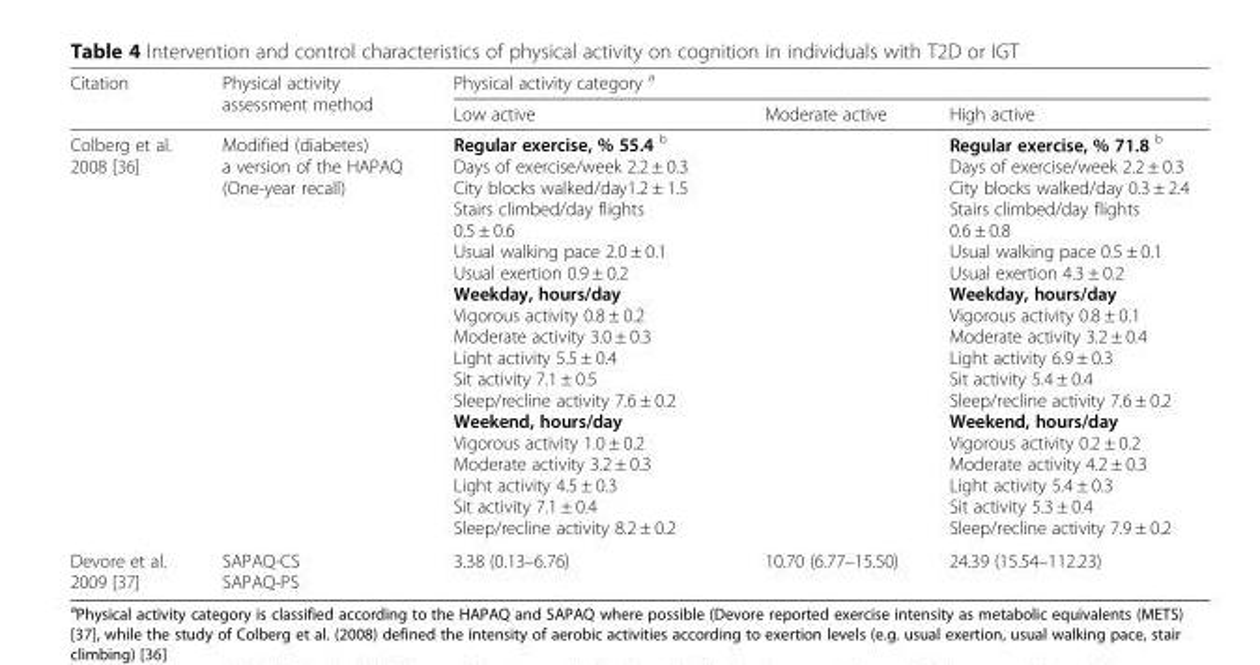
<table><thead><tr><td rowspan="2">Citation</td><td rowspan="2">Physical activity assessment method</td><td colspan="3">Physical activity category <sup>a</sup></td></tr><tr><td>Low active</td><td>Moderate active</td><td>High active</td></tr></thead><tbody><tr><td>Colberg et al. 2008 [36]</td><td>Modified (diabetes) a version of the HAPAQ (One-year recall)</td><td>Regular exercise, % 55.4 <sup>b</sup> Days of exercise/week 2.2 ± 0.3 City blocks walked/day1.2 ± 1.5 Stairs climbed/day flights 0.5 ± 0.6 Usual walking pace 2.0 ± 0.1 Usual exertion 0.9 ± 0.2 Weekday, hours/day Vigorous activity 0.8 ± 0.2 Moderate activity 3.0 ± 0.3 Light activity 5.5 ± 0.4 Sit activity 7.1 ± 0.5 Sleep/recline activity 7.6 ± 0.2 Weekend, hours/day Vigorous activity 1.0 ± 0.2 Moderate activity 3.2 ± 0.3 Light activity 4.5 ± 0.3 Sit activity 7.1 ± 0.4 Sleep/recline activity 8.2 ± 0.2</td><td></td><td>Regular exercise, % 71.8 <sup>b</sup> Days of exercise/week 2.2 ± 0.3 City blocks walked/day 0.3 ± 2.4 Stairs climbed/day flights 0.6 ± 0.8 Usual walking pace 0.5 ± 0.1 Usual exertion 4.3 ± 0.2 Weekday, hours/day Vigorous activity 0.8 ± 0.1 Moderate activity 3.2 ± 0.4 Light activity 6.9 ± 0.3 Sit activity 5.4 ± 0.4 Sleep/recline activity 7.6 ± 0.2 Weekend, hours/day Vigorous activity 0.2 ± 0.2 Moderate activity 4.2 ± 0.3 Light activity 5.4 ± 0.3 Sit activity 5.3 ± 0.4 Sleep/recline activity 7.9 ± 0.2</td></tr><tr><td>Devore et al. 2009 [37]</td><td>SAPAQ-CS SAPAQ-PS</td><td>3.38 (0.13–6.76)</td><td>10.70 (6.77–15.50)</td><td>24.39 (15.54–112.23)</td></tr></tbody></table>